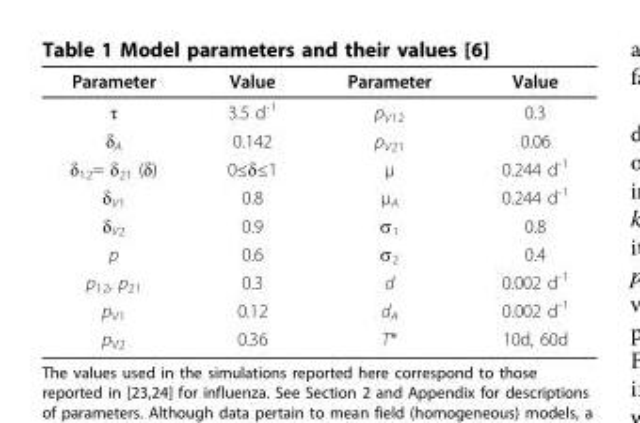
<table><thead><tr><td>Parameter</td><td>Value</td><td>Parameter</td><td>Value</td></tr></thead><tbody><tr><td>τ</td><td>3.5 d<sup>-1</sup></td><td>p<sub>V12</sub></td><td>0.3</td></tr><tr><td>δ<sub>A</sub></td><td>0.142</td><td>p<sub>V21</sub></td><td>0.06</td></tr><tr><td>δ<sub>12</sub>= δ<sub>21</sub> (δ)</td><td>0≤δ≤1</td><td>µ</td><td>0.244 d<sup>-1</sup></td></tr><tr><td>δ<sub>V1</sub></td><td>0.8</td><td>µ<sub>A</sub></td><td>0.244 d<sup>-1</sup></td></tr><tr><td>δ<sub>V2</sub></td><td>0.9</td><td>σ<sub>1</sub></td><td>0.8</td></tr><tr><td>p</td><td>0.6</td><td>σ<sub>2</sub></td><td>0.4</td></tr><tr><td>p<sub>12</sub>, p<sub>21</sub></td><td>0.3</td><td>d</td><td>0.002 d<sup>-1</sup></td></tr><tr><td>p<sub>V1</sub></td><td>0.12</td><td>d<sub>A</sub></td><td>0.002 d<sup>-1</sup></td></tr><tr><td>p<sub>V2</sub></td><td>0.36</td><td>T*</td><td>10d, 60d</td></tr></tbody></table>